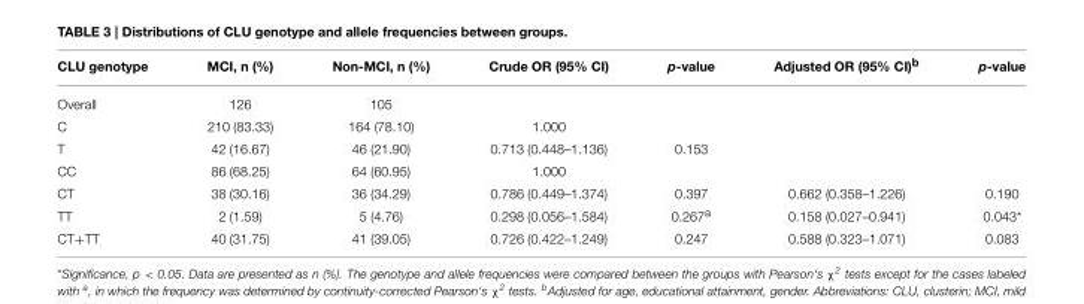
<table><thead><tr><td>CLU genotype</td><td>MCI, n (%)</td><td>Non-MCI, n (%)</td><td>Crude OR (95% CI)</td><td>p-value</td><td>Adjusted OR (95% CI)<sup>b</sup></td><td>p-value</td></tr></thead><tbody><tr><td>Overall</td><td>126</td><td>105</td><td></td><td></td><td></td><td></td></tr><tr><td>C</td><td>210 (83.33)</td><td>164 (78.10)</td><td>1.000</td><td></td><td></td><td></td></tr><tr><td>T</td><td>42 (16.67)</td><td>46 (21.90)</td><td>0.713 (0.448–1.136)</td><td>0.153</td><td></td><td></td></tr><tr><td>CC</td><td>86 (68.25)</td><td>64 (60.95)</td><td>1.000</td><td></td><td></td><td></td></tr><tr><td>CT</td><td>38 (30.16)</td><td>36 (34.29)</td><td>0.786 (0.449–1.374)</td><td>0.397</td><td>0.662 (0.358–1.226)</td><td>0.190</td></tr><tr><td>TT</td><td>2 (1.59)</td><td>5 (4.76)</td><td>0.298 (0.056–1.584)</td><td>0.267<sup>a</sup></td><td>0.158 (0.027–0.941)</td><td>0.043*</td></tr><tr><td>CT+TT</td><td>40 (31.75)</td><td>41 (39.05)</td><td>0.726 (0.422–1.249)</td><td>0.247</td><td>0.588 (0.323–1.071)</td><td>0.083</td></tr></tbody></table>